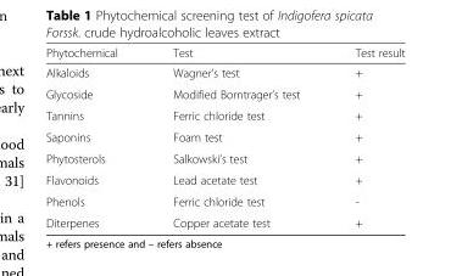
<table><thead><tr><td>Phytochemical</td><td>Test</td><td>Test result</td></tr></thead><tbody><tr><td>Alkaloids</td><td>Wagner’s test</td><td>+</td></tr><tr><td>Glycoside</td><td>Modified Borntrager’s test</td><td>+</td></tr><tr><td>Tannins</td><td>Ferric chloride test</td><td>+</td></tr><tr><td>Saponins</td><td>Foam test</td><td>+</td></tr><tr><td>Phytosterols</td><td>Salkowski’s test</td><td>+</td></tr><tr><td>Flavonoids</td><td>Lead acetate test</td><td>+</td></tr><tr><td>Phenols</td><td>Ferric chloride test</td><td>-</td></tr><tr><td>Diterpenes</td><td>Copper acetate test</td><td>+</td></tr></tbody></table>